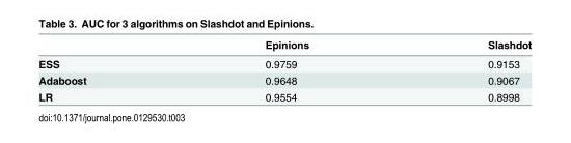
<table><thead><tr><td></td><td>Epinions</td><td>Slashdot</td></tr></thead><tbody><tr><td>ESS</td><td>0.9759</td><td>0.9153</td></tr><tr><td>Adaboost</td><td>0.9648</td><td>0.9067</td></tr><tr><td>LR</td><td>0.9554</td><td>0.8998</td></tr></tbody></table>